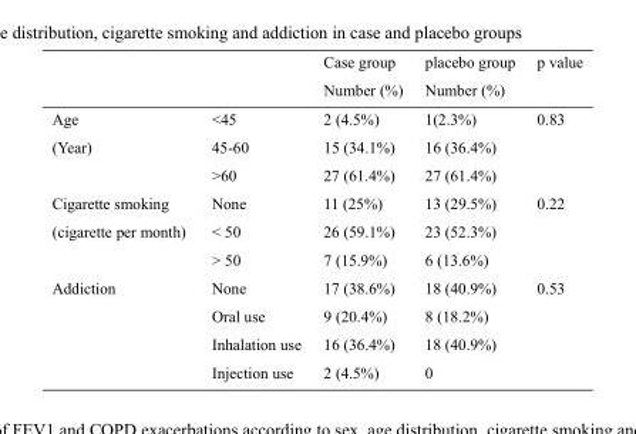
<table><thead><tr><td></td><td></td><td>Case group Number (%)</td><td>placebo group Number (%)</td><td>p value</td></tr></thead><tbody><tr><td rowspan="3">Age (Year)</td><td>&lt;45</td><td>2 (4.5%)</td><td>1(2.3%)</td><td rowspan="3">0.83</td></tr><tr><td>45-60</td><td>15 (34.1%)</td><td>16 (36.4%)</td></tr><tr><td>&gt;60</td><td>27 (61.4%)</td><td>27 (61.4%)</td></tr><tr><td rowspan="3">Cigarette smoking (cigarette per month)</td><td>None</td><td>11 (25%)</td><td>13 (29.5%)</td><td rowspan="3">0.22</td></tr><tr><td>&lt; 50</td><td>26 (59.1%)</td><td>23 (52.3%)</td></tr><tr><td>&gt; 50</td><td>7 (15.9%)</td><td>6 (13.6%)</td></tr><tr><td rowspan="4">Addiction</td><td>None</td><td>17 (38.6%)</td><td>18 (40.9%)</td><td rowspan="4">0.53</td></tr><tr><td>Oral use</td><td>9 (20.4%)</td><td>8 (18.2%)</td></tr><tr><td>Inhalation use</td><td>16 (36.4%)</td><td>18 (40.9%)</td></tr><tr><td>Injection use</td><td>2 (4.5%)</td><td>0</td></tr></tbody></table>